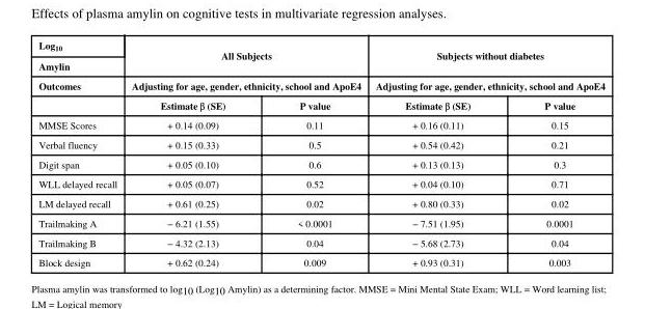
<table><thead><tr><td rowspan="4">Log<sub>10</sub> Amylin Outcomes</td><td rowspan="3" colspan="2">All Subjects Adjusting for age, gender, ethnicity, school and ApoE4</td><td rowspan="3" colspan="2">Subjects without diabetes Adjusting for age, gender, ethnicity, school and ApoE4</td></tr><tr></tr><tr></tr><tr><td>Estimate β (SE)</td><td>P value</td><td>Estimate β (SE)</td><td>P value</td></tr></thead><tbody><tr><td>MMSE Scores</td><td>+ 0.14 (0.09)</td><td>0.11</td><td>+ 0.16 (0.11)</td><td>0.15</td></tr><tr><td>Verbal fluency</td><td>+ 0.15 (0.33)</td><td>0.5</td><td>+ 0.54 (0.42)</td><td>0.21</td></tr><tr><td>Digit span</td><td>+ 0.05 (0.10)</td><td>0.6</td><td>+ 0.13 (0.13)</td><td>0.3</td></tr><tr><td>WLL delayed recall</td><td>+ 0.05 (0.07)</td><td>0.52</td><td>+ 0.04 (0.10)</td><td>0.71</td></tr><tr><td>LM delayed recall</td><td>+ 0.61 (0.25)</td><td>0.02</td><td>+ 0.80 (0.33)</td><td>0.02</td></tr><tr><td>Trailmaking A</td><td>− 6.21 (1.55)</td><td>&lt; 0.0001</td><td>− 7.51 (1.95)</td><td>0.0001</td></tr><tr><td>Trailmaking B</td><td>− 4.32 (2.13)</td><td>0.04</td><td>− 5.68 (2.73)</td><td>0.04</td></tr><tr><td>Block design</td><td>+ 0.62 (0.24)</td><td>0.009</td><td>+ 0.93 (0.31)</td><td>0.003</td></tr></tbody></table>